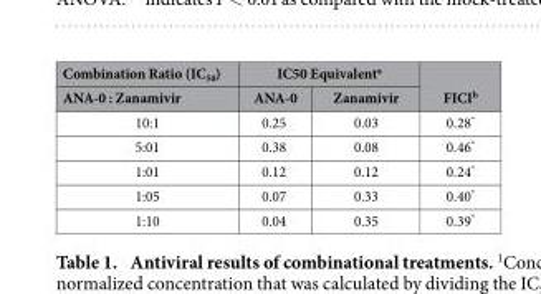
<table><thead><tr><td rowspan="2">Combination Ratio (IC<sub>50</sub>) ANA-0 : Zanamivir</td><td colspan="2">IC50 Equivalent<sup>a</sup></td><td rowspan="2">FICI<sup>b</sup></td></tr><tr><td>ANA-0</td><td>Zanamivir</td></tr></thead><tbody><tr><td>10:1</td><td>0.25</td><td>0.03</td><td>0.28*</td></tr><tr><td>5:01</td><td>0.38</td><td>0.08</td><td>0.46*</td></tr><tr><td>1:01</td><td>0.12</td><td>0.12</td><td>0.24*</td></tr><tr><td>1:05</td><td>0.07</td><td>0.33</td><td>0.40*</td></tr><tr><td>1:10</td><td>0.04</td><td>0.35</td><td>0.39*</td></tr></tbody></table>